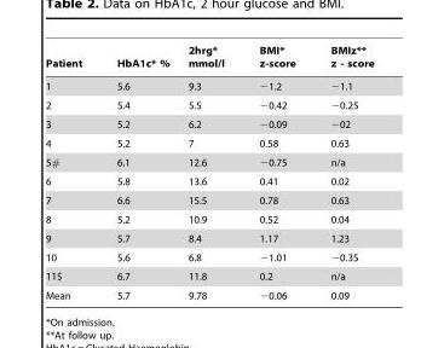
<table><thead><tr><td>Patient</td><td>HbA1c* %</td><td>2hrg* mmol/l</td><td>BMI* z-score</td><td>BMIz** z - score</td></tr></thead><tbody><tr><td>1</td><td>5.6</td><td>9.3</td><td>−1.2</td><td>−1.1</td></tr><tr><td>2</td><td>5.4</td><td>5.5</td><td>−0.42</td><td>−0.25</td></tr><tr><td>3</td><td>5.2</td><td>6.2</td><td>−0.09</td><td>−02</td></tr><tr><td>4</td><td>5.2</td><td>7</td><td>0.58</td><td>0.63</td></tr><tr><td>5#</td><td>6.1</td><td>12.6</td><td>−0.75</td><td>n/a</td></tr><tr><td>6</td><td>5.8</td><td>13.6</td><td>0.41</td><td>0.02</td></tr><tr><td>7</td><td>6.6</td><td>15.5</td><td>0.78</td><td>0.63</td></tr><tr><td>8</td><td>5.2</td><td>10.9</td><td>0.52</td><td>0.04</td></tr><tr><td>9</td><td>5.7</td><td>8.4</td><td>1.17</td><td>1.23</td></tr><tr><td>10</td><td>5.6</td><td>6.8</td><td>−1.01</td><td>−0.35</td></tr><tr><td>11$</td><td>6.7</td><td>11.8</td><td>0.2</td><td>n/a</td></tr><tr><td>Mean</td><td>5.7</td><td>9.78</td><td>−0.06</td><td>0.09</td></tr></tbody></table>